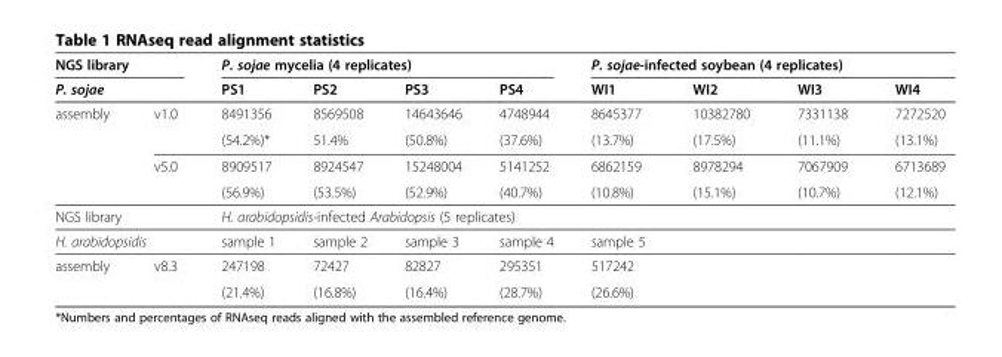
<table><thead><tr><td rowspan="2" colspan="2">NGS library P. sojae</td><td colspan="4">P. sojae mycelia (4 replicates)</td><td colspan="4">P. sojae-infected soybean (4 replicates)</td></tr><tr><td rowspan="2">PS1 8491356</td><td rowspan="2">PS2 8569508</td><td rowspan="2">PS3 14643646</td><td rowspan="2">PS4 4748944</td><td rowspan="2">WI1 8645377</td><td rowspan="2">WI2 10382780</td><td rowspan="2">WI3 7331138</td><td rowspan="2">WI4 7272520</td></tr><tr><td>assembly</td><td>v1.0</td></tr></thead><tbody><tr><td></td><td></td><td>(54.2%)*</td><td>51.4%</td><td>(50.8%)</td><td>(37.6%)</td><td>(13.7%)</td><td>(17.5%)</td><td>(11.1%)</td><td>(13.1%)</td></tr><tr><td></td><td>v5.0</td><td>8909517</td><td>8924547</td><td>15248004</td><td>5141252</td><td>6862159</td><td>8978294</td><td>7067909</td><td>6713689</td></tr><tr><td></td><td></td><td>(56.9%)</td><td>(53.5%)</td><td>(52.9%)</td><td>(40.7%)</td><td>(10.8%)</td><td>(15.1%)</td><td>(10.7%)</td><td>(12.1%)</td></tr><tr><td colspan="2">NGS library</td><td colspan="8">H. arabidopsidis-infected Arabidopsis (5 replicates)</td></tr><tr><td colspan="2">H. arabidopsidis</td><td>sample 1</td><td>sample 2</td><td>sample 3</td><td>sample 4</td><td>sample 5</td><td></td><td></td><td></td></tr><tr><td rowspan="2">assembly</td><td>v8.3</td><td>247198</td><td>72427</td><td>82827</td><td>295351</td><td>517242</td><td></td><td></td><td></td></tr><tr><td></td><td>(21.4%)</td><td>(16.8%)</td><td>(16.4%)</td><td>(28.7%)</td><td>(26.6%)</td><td></td><td></td><td></td></tr></tbody></table>